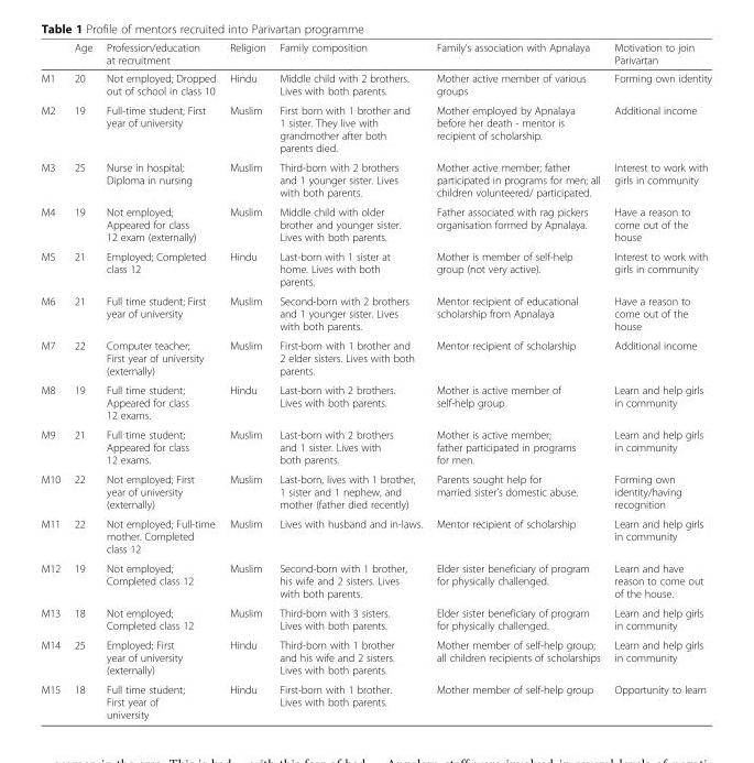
<table><thead><tr><td></td><td>Age</td><td>Profession/education at recruitment</td><td>Religion</td><td>Family composition</td><td>Family’s association with Apnalaya</td><td>Motivation to join Parivartan</td></tr></thead><tbody><tr><td>M1</td><td>20</td><td>Not employed; Dropped out of school in class 10</td><td>Hindu</td><td>Middle child with 2 brothers. Lives with both parents.</td><td>Mother active member of various groups</td><td>Forming own identity</td></tr><tr><td>M2</td><td>19</td><td>Full-time student; First year of university</td><td>Muslim</td><td>First born with 1 brother and 1 sister. They live with grandmother after both parents died.</td><td>Mother employed by Apnalaya before her death - mentor is recipient of scholarship.</td><td>Additional income</td></tr><tr><td>M3</td><td>25</td><td>Nurse in hospital; Diploma in nursing</td><td>Muslim</td><td>Third-born with 2 brothers and 1 younger sister. Lives with both parents.</td><td>Mother active member; father participated in programs for men; all children volunteered/ participated.</td><td>Interest to work with girls in community</td></tr><tr><td>M4</td><td>19</td><td>Not employed; Appeared for class 12 exam (externally)</td><td>Muslim</td><td>Middle child with older brother and younger sister. Lives with both parents.</td><td>Father associated with rag pickers organisation formed by Apnalaya.</td><td>Have a reason to come out of the house</td></tr><tr><td>M5</td><td>21</td><td>Employed; Completed class 12</td><td>Hindu</td><td>Last-born with 1 sister at home. Lives with both parents.</td><td>Mother is member of self-help group (not very active).</td><td>Interest to work with girls in community</td></tr><tr><td>M6</td><td>21</td><td>Full time student; First year of university</td><td>Muslim</td><td>Second-born with 2 brothers and 1 younger sister. Lives with both parents.</td><td>Mentor recipient of educational scholarship from Apnalaya</td><td>Have a reason to come out of the house</td></tr><tr><td>M7</td><td>22</td><td>Computer teacher; First year of university (externally)</td><td>Muslim</td><td>First-born with 1 brother and 2 elder sisters. Lives with both parents.</td><td>Mentor recipient of scholarship</td><td>Additional income</td></tr><tr><td>M8</td><td>19</td><td>Full time student; Appeared for class 12 exams.</td><td>Hindu</td><td>Last-born with 2 brothers. Lives with both parents.</td><td>Mother is active member of self-help group</td><td>Learn and help girls in community</td></tr><tr><td>M9</td><td>21</td><td>Full time student; Appeared for class 12 exams.</td><td>Muslim</td><td>Last-born with 2 brothers and 1 sister. Lives with both parents.</td><td>Mother is active member; father participated in programs for men.</td><td>Learn and help girls in community</td></tr><tr><td>M10</td><td>22</td><td>Not employed; First year of university (externally)</td><td>Muslim</td><td>Last-born, lives with 1 brother, 1 sister and 1 nephew, and mother (father died recently)</td><td>Parents sought help for married sister’s domestic abuse.</td><td>Forming own identity/having recognition</td></tr><tr><td>M11</td><td>22</td><td>Not employed; Full-time mother. Completed class 12</td><td>Muslim</td><td>Lives with husband and in-laws.</td><td>Mentor recipient of scholarship</td><td>Learn and help girls in community</td></tr><tr><td>M12</td><td>19</td><td>Not employed; Completed class 12</td><td>Muslim</td><td>Second-born with 1 brother, his wife and 2 sisters. Lives with both parents.</td><td>Elder sister beneficiary of program for physically challenged.</td><td>Learn and have reason to come out of the house.</td></tr><tr><td>M13</td><td>18</td><td>Not employed; Completed class 12</td><td>Muslim</td><td>Third-born with 3 sisters. Lives with both parents.</td><td>Elder sister beneficiary of program for physically challenged.</td><td>Learn and help girls in community</td></tr><tr><td>M14</td><td>25</td><td>Employed; First year of university (externally)</td><td>Hindu</td><td>Third-born with 1 brother and his wife and 2 sisters. Lives with both parents.</td><td>Mother member of self-help group; all children recipients of scholarships</td><td>Learn and help girls in community</td></tr><tr><td>M15</td><td>18</td><td>Full time student; First year of university</td><td>Hindu</td><td>First-born with 1 brother. Lives with both parents.</td><td>Mother member of self-help group</td><td>Opportunity to learn</td></tr></tbody></table>